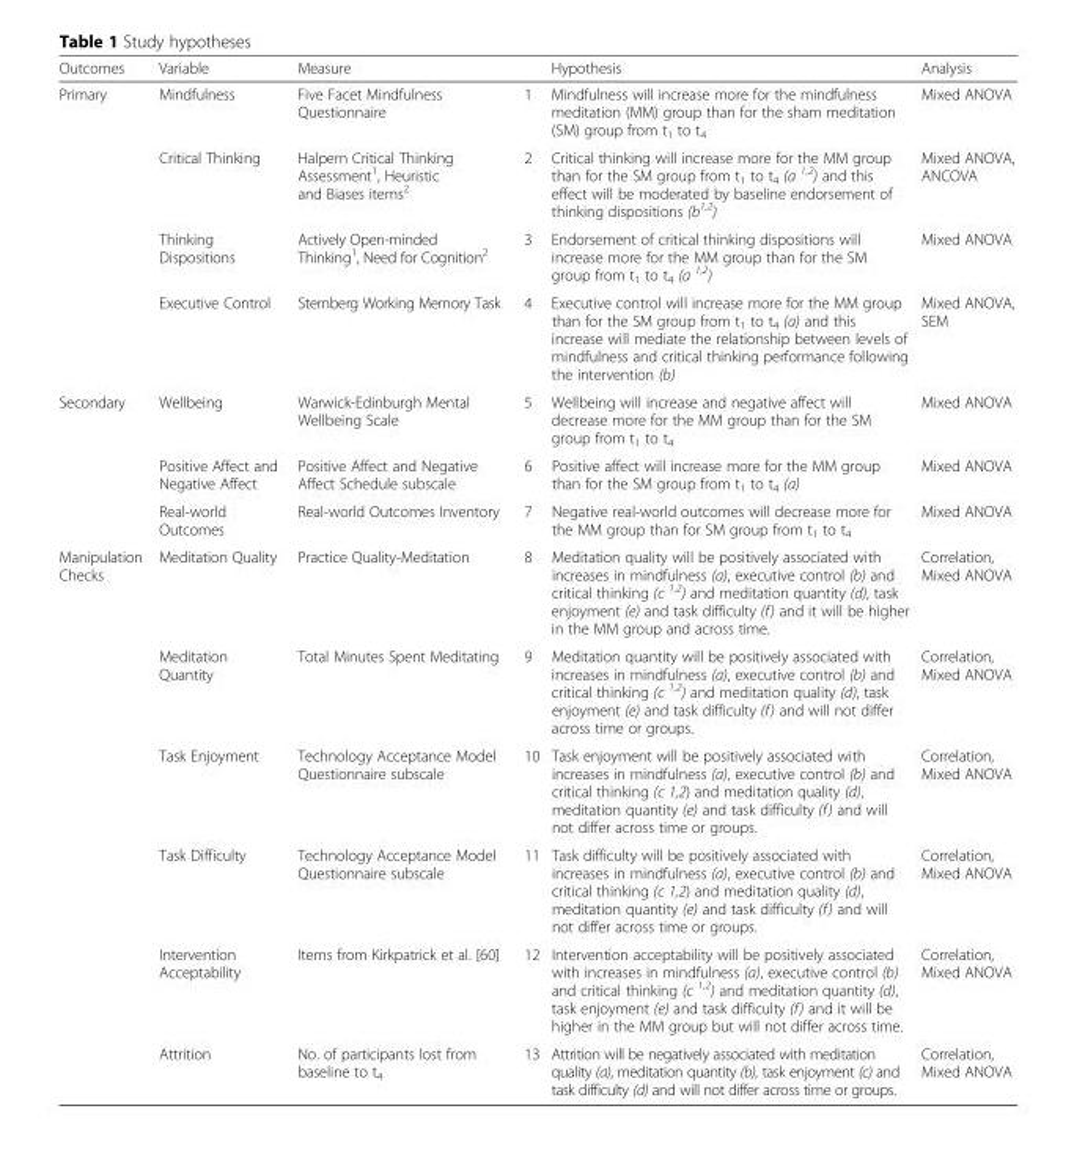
<table><thead><tr><td>Outcomes</td><td>Variable</td><td>Measure</td><td></td><td>Hypothesis</td><td>Analysis</td></tr></thead><tbody><tr><td rowspan="4">Primary</td><td>Mindfulness</td><td>Five Facet Mindfulness Questionnaire</td><td>1</td><td>Mindfulness will increase more for the mindfulness meditation (MM) group than for the sham meditation (SM) group from t<sub>1</sub> to t<sub>4</sub></td><td>Mixed ANOVA</td></tr><tr><td>Critical Thinking</td><td>Halpern Critical Thinking Assessment<sup>1</sup>, Heuristic and Biases items<sup>2</sup></td><td>2</td><td>Critical thinking will increase more for the MM group than for the SM group from t<sub>1</sub> to t<sub>4</sub> (a <sup>1,2</sup>) and this effect will be moderated by baseline endorsement of thinking dispositions (b<sup>1,2</sup>)</td><td>Mixed ANOVA, ANCOVA</td></tr><tr><td>Thinking Dispositions</td><td>Actively Open-minded Thinking<sup>1</sup>, Need for Cognition<sup>2</sup></td><td>3</td><td>Endorsement of critical thinking dispositions will increase more for the MM group than for the SM group from t<sub>1</sub> to t<sub>4</sub> (a <sup>1,2</sup>)</td><td>Mixed ANOVA</td></tr><tr><td>Executive Control</td><td>Sternberg Working Memory Task</td><td>4</td><td>Executive control will increase more for the MM group than for the SM group from t<sub>1</sub> to t<sub>4</sub> (a) and this increase will mediate the relationship between levels of mindfulness and critical thinking performance following the intervention (b)</td><td>Mixed ANOVA, SEM</td></tr><tr><td rowspan="3">Secondary</td><td>Wellbeing</td><td>Warwick-Edinburgh Mental Wellbeing Scale</td><td>5</td><td>Wellbeing will increase and negative affect will decrease more for the MM group than for the SM group from t<sub>1</sub> to t<sub>4</sub></td><td>Mixed ANOVA</td></tr><tr><td>Positive Affect and Negative Affect</td><td>Positive Affect and Negative Affect Schedule subscale</td><td>6</td><td>Positive affect will increase more for the MM group than for the SM group from t<sub>1</sub> to t<sub>4</sub> (a)</td><td>Mixed ANOVA</td></tr><tr><td>Real-world Outcomes</td><td>Real-world Outcomes Inventory</td><td>7</td><td>Negative real-world outcomes will decrease more for the MM group than for SM group from t<sub>1</sub> to t<sub>4</sub></td><td>Mixed ANOVA</td></tr><tr><td rowspan="6">Manipulation Checks</td><td>Meditation Quality</td><td>Practice Quality-Meditation</td><td>8</td><td>Meditation quality will be positively associated with increases in mindfulness (a), executive control (b) and critical thinking (c <sup>1,2</sup>) and meditation quantity (d), task enjoyment (e) and task difficulty (f) and it will be higher in the MM group and across time.</td><td>Correlation, Mixed ANOVA</td></tr><tr><td>Meditation Quantity</td><td>Total Minutes Spent Meditating</td><td>9</td><td>Meditation quantity will be positively associated with increases in mindfulness (a), executive control (b) and critical thinking (c <sup>1,2</sup>) and meditation quality (d), task enjoyment (e) and task difficulty (f) and will not differ across time or groups.</td><td>Correlation, Mixed ANOVA</td></tr><tr><td>Task Enjoyment</td><td>Technology Acceptance Model Questionnaire subscale</td><td>10</td><td>Task enjoyment will be positively associated with increases in mindfulness (a), executive control (b) and critical thinking (c 1,2) and meditation quality (d), meditation quantity (e) and task difficulty (f) and will not differ across time or groups.</td><td>Correlation, Mixed ANOVA</td></tr><tr><td>Task Difficulty</td><td>Technology Acceptance Model Questionnaire subscale</td><td>11</td><td>Task difficulty will be positively associated with increases in mindfulness (a), executive control (b) and critical thinking (c 1,2) and meditation quality (d), meditation quantity (e) and task difficulty (f) and will not differ across time or groups.</td><td>Correlation, Mixed ANOVA</td></tr><tr><td>Intervention Acceptability</td><td>Items from Kirkpatrick et al. [60]</td><td>12</td><td>Intervention acceptability will be positively associated with increases in mindfulness (a), executive control (b) and critical thinking (c <sup>1,2</sup>) and meditation quantity (d), task enjoyment (e) and task difficulty (f) and it will be higher in the MM group but will not differ across time.</td><td>Correlation, Mixed ANOVA</td></tr><tr><td>Attrition</td><td>No. of participants lost from baseline to t<sub>4</sub></td><td>13</td><td>Attrition will be negatively associated with meditation quality (a), meditation quantity (b), task enjoyment (c) and task difficulty (d) and will not differ across time or groups.</td><td>Correlation, Mixed ANOVA</td></tr></tbody></table>